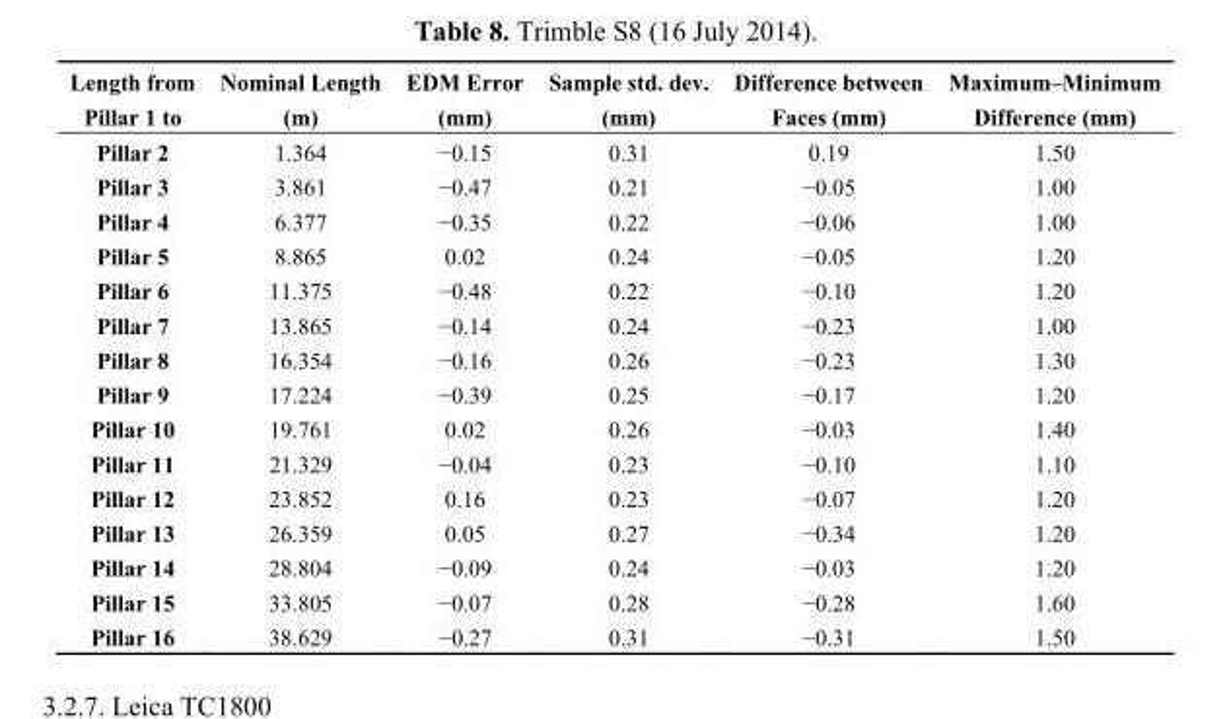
<table><thead><tr><td>Length from Pillar 1 to</td><td>Nominal Length (m)</td><td>EDM Error (mm)</td><td>Sample std. dev. (mm)</td><td>Difference between Faces (mm)</td><td>Maximum–Minimum Difference (mm)</td></tr></thead><tbody><tr><td>Pillar 2</td><td>1.364</td><td>−0.15</td><td>0.31</td><td>0.19</td><td>1.50</td></tr><tr><td>Pillar 3</td><td>3.861</td><td>−0.47</td><td>0.21</td><td>−0.05</td><td>1.00</td></tr><tr><td>Pillar 4</td><td>6.377</td><td>−0.35</td><td>0.22</td><td>−0.06</td><td>1.00</td></tr><tr><td>Pillar 5</td><td>8.865</td><td>0.02</td><td>0.24</td><td>−0.05</td><td>1.20</td></tr><tr><td>Pillar 6</td><td>11.375</td><td>−0.48</td><td>0.22</td><td>−0.10</td><td>1.20</td></tr><tr><td>Pillar 7</td><td>13.865</td><td>−0.14</td><td>0.24</td><td>−0.23</td><td>1.00</td></tr><tr><td>Pillar 8</td><td>16.354</td><td>−0.16</td><td>0.26</td><td>−0.23</td><td>1.30</td></tr><tr><td>Pillar 9</td><td>17.224</td><td>−0.39</td><td>0.25</td><td>−0.17</td><td>1.20</td></tr><tr><td>Pillar 10</td><td>19.761</td><td>0.02</td><td>0.26</td><td>−0.03</td><td>1.40</td></tr><tr><td>Pillar 11</td><td>21.329</td><td>−0.04</td><td>0.23</td><td>−0.10</td><td>1.10</td></tr><tr><td>Pillar 12</td><td>23.852</td><td>0.16</td><td>0.23</td><td>−0.07</td><td>1.20</td></tr><tr><td>Pillar 13</td><td>26.359</td><td>0.05</td><td>0.27</td><td>−0.34</td><td>1.20</td></tr><tr><td>Pillar 14</td><td>28.804</td><td>−0.09</td><td>0.24</td><td>−0.03</td><td>1.20</td></tr><tr><td>Pillar 15</td><td>33.805</td><td>−0.07</td><td>0.28</td><td>−0.28</td><td>1.60</td></tr><tr><td>Pillar 16</td><td>38.629</td><td>−0.27</td><td>0.31</td><td>−0.31</td><td>1.50</td></tr></tbody></table>